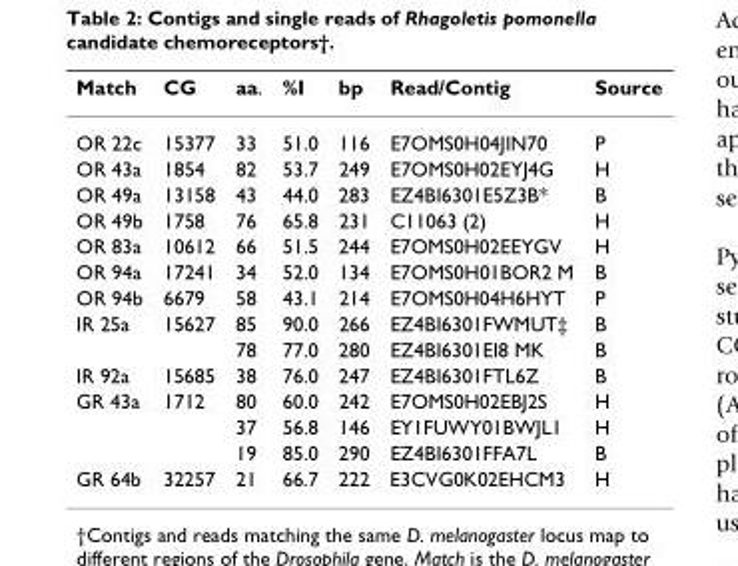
<table><thead><tr><td>Match</td><td>CG</td><td>aa.</td><td>%I</td><td>bp</td><td>Read/Contig</td><td>Source</td></tr></thead><tbody><tr><td>OR 22c</td><td>15377</td><td>33</td><td>51.0</td><td>116</td><td>E7OMS0H04JIN70</td><td>P</td></tr><tr><td>OR 43a</td><td>1854</td><td>82</td><td>53.7</td><td>249</td><td>E7OMS0H02EYJ4G</td><td>H</td></tr><tr><td>OR 49a</td><td>13158</td><td>43</td><td>44.0</td><td>283</td><td>EZ4BI6301E5Z3B*</td><td>B</td></tr><tr><td>OR 49b</td><td>1758</td><td>76</td><td>65.8</td><td>231</td><td>C11063 (2)</td><td>H</td></tr><tr><td>OR 83a</td><td>10612</td><td>66</td><td>51.5</td><td>244</td><td>E7OMS0H02EEYGV</td><td>H</td></tr><tr><td>OR 94a</td><td>17241</td><td>34</td><td>52.0</td><td>134</td><td>E7OMS0H01BOR2 M</td><td>B</td></tr><tr><td>OR 94b</td><td>6679</td><td>58</td><td>43.1</td><td>214</td><td>E7OMS0H04H6HYT</td><td>P</td></tr><tr><td rowspan="2">IR 25a</td><td>15627</td><td>85</td><td>90.0</td><td>266</td><td>EZ4BI6301FWMUT‡</td><td>B</td></tr><tr><td></td><td>78</td><td>77.0</td><td>280</td><td>EZ4BI6301EI8 MK</td><td>B</td></tr><tr><td>IR 92a</td><td>15685</td><td>38</td><td>76.0</td><td>247</td><td>EZ4BI6301FTL6Z</td><td>B</td></tr><tr><td rowspan="3">GR 43a</td><td>1712</td><td>80</td><td>60.0</td><td>242</td><td>E7OMS0H02EBJ2S</td><td>H</td></tr><tr><td></td><td>37</td><td>56.8</td><td>146</td><td>EY1FUWY01BWJL1</td><td>H</td></tr><tr><td></td><td>19</td><td>85.0</td><td>290</td><td>EZ4BI6301FFA7L</td><td>B</td></tr><tr><td>GR 64b</td><td>32257</td><td>21</td><td>66.7</td><td>222</td><td>E3CVG0K02EHCM3</td><td>H</td></tr></tbody></table>